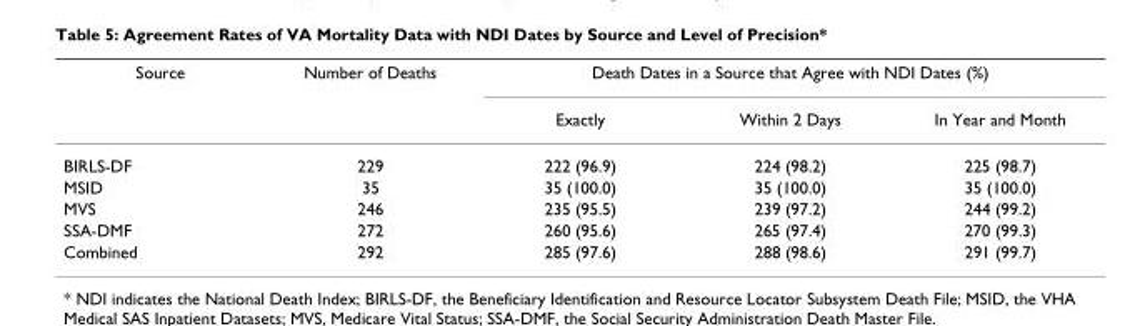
<table><thead><tr><td rowspan="2">Source</td><td rowspan="2">Number of Deaths</td><td colspan="3">Death Dates in a Source that Agree with NDI Dates (%)</td></tr><tr><td>Exactly</td><td>Within 2 Days</td><td>In Year and Month</td></tr></thead><tbody><tr><td>BIRLS-DF</td><td>229</td><td>222 (96.9)</td><td>224 (98.2)</td><td>225 (98.7)</td></tr><tr><td>MSID</td><td>35</td><td>35 (100.0)</td><td>35 (100.0)</td><td>35 (100.0)</td></tr><tr><td>MVS</td><td>246</td><td>235 (95.5)</td><td>239 (97.2)</td><td>244 (99.2)</td></tr><tr><td>SSA-DMF</td><td>272</td><td>260 (95.6)</td><td>265 (97.4)</td><td>270 (99.3)</td></tr><tr><td>Combined</td><td>292</td><td>285 (97.6)</td><td>288 (98.6)</td><td>291 (99.7)</td></tr></tbody></table>